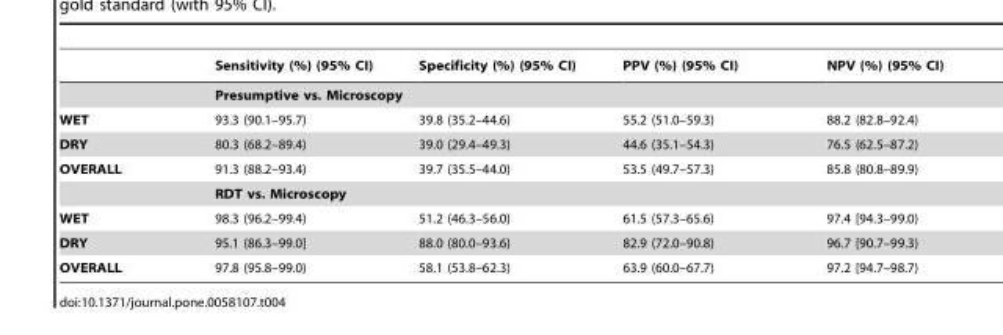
<table><thead><tr><td></td><td>Sensitivity (%) (95% CI)</td><td>Specificity (%) (95% CI)</td><td>PPV (%) (95% CI)</td><td>NPV (%) (95% CI)</td></tr></thead><tbody><tr><td></td><td colspan="4">Presumptive vs. Microscopy</td></tr><tr><td>WET</td><td>93.3 (90.1–95.7)</td><td>39.8 (35.2–44.6)</td><td>55.2 (51.0–59.3)</td><td>88.2 (82.8–92.4)</td></tr><tr><td>DRY</td><td>80.3 (68.2–89.4)</td><td>39.0 (29.4–49.3)</td><td>44.6 (35.1–54.3)</td><td>76.5 (62.5–87.2)</td></tr><tr><td rowspan="2">OVERALL</td><td>91.3 (88.2–93.4)</td><td>39.7 (35.5–44.0)</td><td>53.5 (49.7–57.3)</td><td>85.8 (80.8–89.9)</td></tr><tr><td colspan="4">RDT vs. Microscopy</td></tr><tr><td>WET</td><td>98.3 (96.2–99.4)</td><td>51.2 (46.3–56.0)</td><td>61.5 (57.3–65.6)</td><td>97.4 [94.3–99.0)</td></tr><tr><td>DRY</td><td>95.1 (86.3–99.0]</td><td>88.0 (80.0–93.6)</td><td>82.9 (72.0–90.8)</td><td>96.7 [90.7–99.3)</td></tr><tr><td>OVERALL</td><td>97.8 (95.8–99.0)</td><td>58.1 (53.8–62.3)</td><td>63.9 (60.0–67.7)</td><td>97.2 [94.7–98.7)</td></tr></tbody></table>